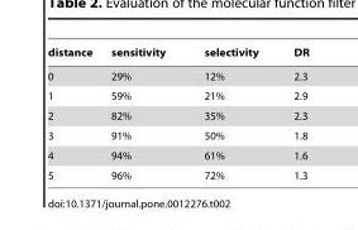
<table><thead><tr><td>distance</td><td>sensitivity</td><td>selectivity</td><td>DR</td></tr></thead><tbody><tr><td>0</td><td>29%</td><td>12%</td><td>2.3</td></tr><tr><td>1</td><td>59%</td><td>21%</td><td>2.9</td></tr><tr><td>2</td><td>82%</td><td>35%</td><td>2.3</td></tr><tr><td>3</td><td>91%</td><td>50%</td><td>1.8</td></tr><tr><td>4</td><td>94%</td><td>61%</td><td>1.6</td></tr><tr><td>5</td><td>96%</td><td>72%</td><td>1.3</td></tr></tbody></table>